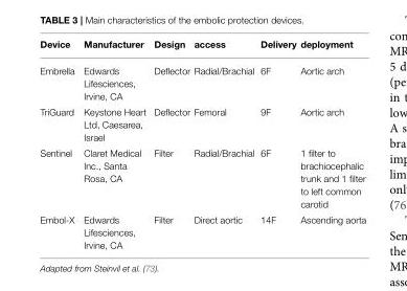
<table><thead><tr><td>Device</td><td>Manufacturer</td><td>Design</td><td>access</td><td>Delivery</td><td>deployment</td></tr></thead><tbody><tr><td>Embrella</td><td>Edwards Lifesciences, Irvine, CA</td><td>Deflector</td><td>Radial/Brachial</td><td>6F</td><td>Aortic arch</td></tr><tr><td>TriGuard</td><td>Keystone Heart Ltd, Caesarea, Israel</td><td>Deflector</td><td>Femoral</td><td>9F</td><td>Aortic arch</td></tr><tr><td>Sentinel</td><td>Claret Medical Inc., Santa Rosa, CA</td><td>Filter</td><td>Radial/Brachial</td><td>6F</td><td>1 filter to brachiocephalic trunk and 1 filter to left common carotid</td></tr><tr><td>Embol-X</td><td>Edwards Lifesciences, Irvine, CA</td><td>Filter</td><td>Direct aortic</td><td>14F</td><td>Ascending aorta</td></tr></tbody></table>